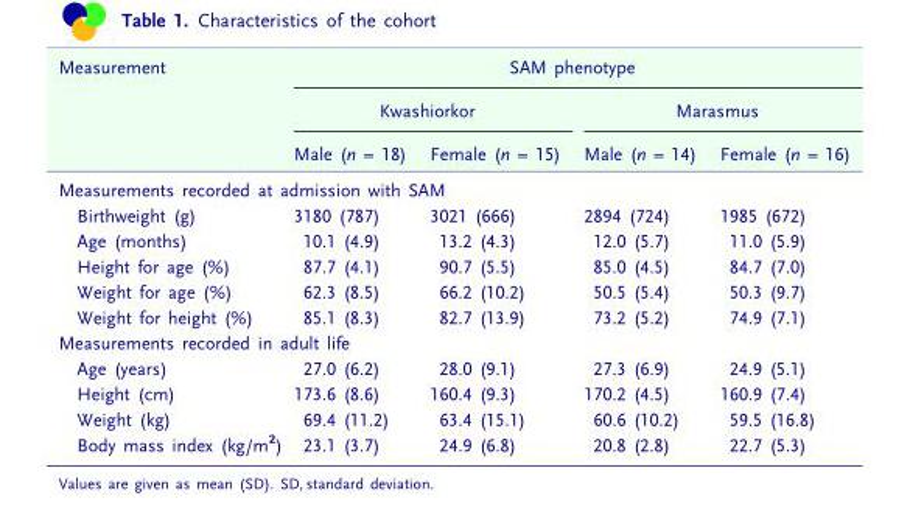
<table><thead><tr><td rowspan="3">Measurement</td><td colspan="4">SAM phenotype</td></tr><tr><td colspan="2">Kwashiorkor</td><td colspan="2">Marasmus</td></tr><tr><td>Male (n = 18)</td><td>Female (n = 15)</td><td>Male (n = 14)</td><td>Female (n = 16)</td></tr></thead><tbody><tr><td colspan="5">Measurements recorded at admission with SAM</td></tr><tr><td>Birthweight (g)</td><td>3180 (787)</td><td>3021 (666)</td><td>2894 (724)</td><td>1985 (672)</td></tr><tr><td>Age (months)</td><td>10.1 (4.9)</td><td>13.2 (4.3)</td><td>12.0 (5.7)</td><td>11.0 (5.9)</td></tr><tr><td>Height for age (%)</td><td>87.7 (4.1)</td><td>90.7 (5.5)</td><td>85.0 (4.5)</td><td>84.7 (7.0)</td></tr><tr><td>Weight for age (%)</td><td>62.3 (8.5)</td><td>66.2 (10.2)</td><td>50.5 (5.4)</td><td>50.3 (9.7)</td></tr><tr><td>Weight for height (%)</td><td>85.1 (8.3)</td><td>82.7 (13.9)</td><td>73.2 (5.2)</td><td>74.9 (7.1)</td></tr><tr><td colspan="5">Measurements recorded in adult life</td></tr><tr><td>Age (years)</td><td>27.0 (6.2)</td><td>28.0 (9.1)</td><td>27.3 (6.9)</td><td>24.9 (5.1)</td></tr><tr><td>Height (cm)</td><td>173.6 (8.6)</td><td>160.4 (9.3)</td><td>170.2 (4.5)</td><td>160.9 (7.4)</td></tr><tr><td>Weight (kg)</td><td>69.4 (11.2)</td><td>63.4 (15.1)</td><td>60.6 (10.2)</td><td>59.5 (16.8)</td></tr><tr><td>Body mass index (kg/m<sup>2</sup>)</td><td>23.1 (3.7)</td><td>24.9 (6.8)</td><td>20.8 (2.8)</td><td>22.7 (5.3)</td></tr></tbody></table>